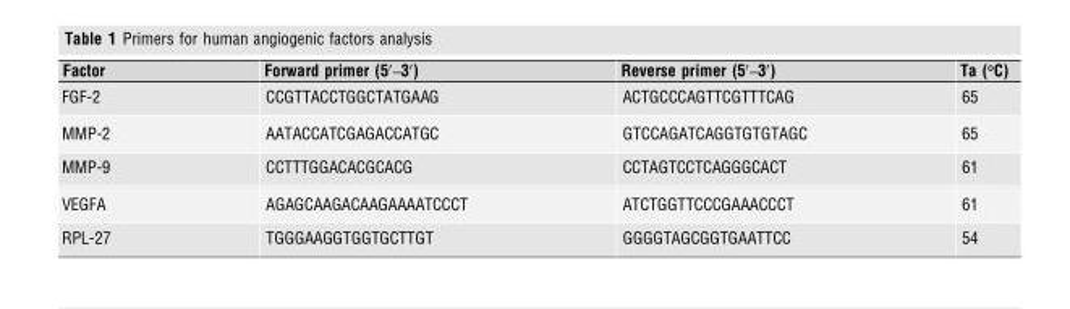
<table><thead><tr><td>Factor</td><td>Forward primer (5′–3′)</td><td>Reverse primer (5′–3′)</td><td>Ta (°C)</td></tr></thead><tbody><tr><td>FGF-2</td><td>CCGTTACCTGGCTATGAAG</td><td>ACTGCCCAGTTCGTTTCAG</td><td>65</td></tr><tr><td>MMP-2</td><td>AATACCATCGAGACCATGC</td><td>GTCCAGATCAGGTGTGTAGC</td><td>65</td></tr><tr><td>MMP-9</td><td>CCTTTGGACACGCACG</td><td>CCTAGTCCTCAGGGCACT</td><td>61</td></tr><tr><td>VEGFA</td><td>AGAGCAAGACAAGAAAATCCCT</td><td>ATCTGGTTCCCGAAACCCT</td><td>61</td></tr><tr><td>RPL-27</td><td>TGGGAAGGTGGTGCTTGT</td><td>GGGGTAGCGGTGAATTCC</td><td>54</td></tr></tbody></table>